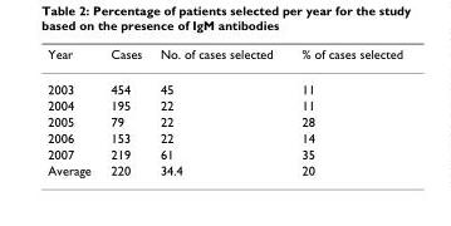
<table><thead><tr><td>Year</td><td>Cases</td><td>No. of cases selected</td><td>% of cases selected</td></tr></thead><tbody><tr><td>2003</td><td>454</td><td>45</td><td>11</td></tr><tr><td>2004</td><td>195</td><td>22</td><td>11</td></tr><tr><td>2005</td><td>79</td><td>22</td><td>28</td></tr><tr><td>2006</td><td>153</td><td>22</td><td>14</td></tr><tr><td>2007</td><td>219</td><td>61</td><td>35</td></tr><tr><td>Average</td><td>220</td><td>34.4</td><td>20</td></tr></tbody></table>